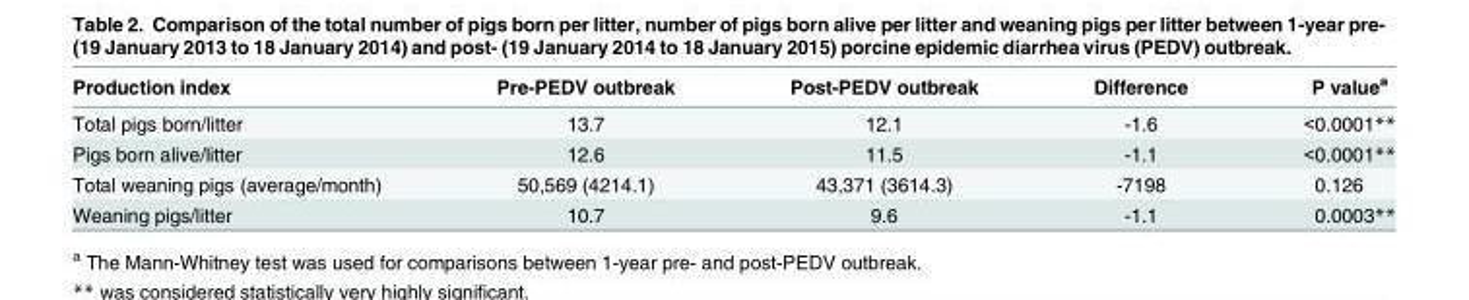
<table><thead><tr><td>Production index</td><td>Pre-PEDV outbreak</td><td>Post-PEDV outbreak</td><td>Difference</td><td>P value<sup>a</sup></td></tr></thead><tbody><tr><td>Total pigs born/litter</td><td>13.7</td><td>12.1</td><td>-1.6</td><td>&lt;0.0001**</td></tr><tr><td>Pigs born alive/litter</td><td>12.6</td><td>11.5</td><td>-1.1</td><td>&lt;0.0001**</td></tr><tr><td>Total weaning pigs (average/month)</td><td>50,569 (4214.1)</td><td>43,371 (3614.3)</td><td>-7198</td><td>0.126</td></tr><tr><td>Weaning pigs/litter</td><td>10.7</td><td>9.6</td><td>-1.1</td><td>0.0003**</td></tr></tbody></table>